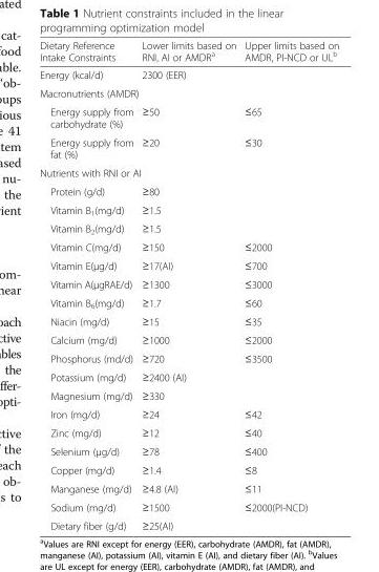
<table><thead><tr><td>Dietary Reference Intake Constraints</td><td>Lower limits based on RNI, AI or AMDR<sup>a</sup></td><td>Upper limits based on AMDR, PI-NCD or UL<sup>b</sup></td></tr></thead><tbody><tr><td>Energy (kcal/d)</td><td>2300 (EER)</td><td></td></tr><tr><td colspan="3">Macronutrients (AMDR)</td></tr><tr><td>Energy supply from carbohydrate (%)</td><td>≥50</td><td>≤65</td></tr><tr><td>Energy supply from fat (%)</td><td>≥20</td><td>≤30</td></tr><tr><td colspan="3">Nutrients with RNI or AI</td></tr><tr><td>Protein (g/d)</td><td>≥80</td><td></td></tr><tr><td>Vitamin B<sub>1</sub>(mg/d)</td><td>≥1.5</td><td></td></tr><tr><td>Vitamin B<sub>2</sub>(mg/d)</td><td>≥1.5</td><td></td></tr><tr><td>Vitamin C(mg/d)</td><td>≥150</td><td>≤2000</td></tr><tr><td>Vitamin E(μg/d)</td><td>≥17(AI)</td><td>≤700</td></tr><tr><td>Vitamin A(μgRAE/d)</td><td>≥1300</td><td>≤3000</td></tr><tr><td>Vitamin B<sub>6</sub>(mg/d)</td><td>≥1.7</td><td>≤60</td></tr><tr><td>Niacin (mg/d)</td><td>≥15</td><td>≤35</td></tr><tr><td>Calcium (mg/d)</td><td>≥1000</td><td>≤2000</td></tr><tr><td>Phosphorus (md/d)</td><td>≥720</td><td>≤3500</td></tr><tr><td>Potassium (mg/d)</td><td>≥2400 (AI)</td><td></td></tr><tr><td>Magnesium (mg/d)</td><td>≥330</td><td></td></tr><tr><td>Iron (mg/d)</td><td>≥24</td><td>≤42</td></tr><tr><td>Zinc (mg/d)</td><td>≥12</td><td>≤40</td></tr><tr><td>Selenium (μg/d)</td><td>≥78</td><td>≤400</td></tr><tr><td>Copper (mg/d)</td><td>≥1.4</td><td>≤8</td></tr><tr><td>Manganese (mg/d)</td><td>≥4.8 (AI)</td><td>≤11</td></tr><tr><td>Sodium (mg/d)</td><td>≥1500</td><td>≤2000(PI-NCD)</td></tr><tr><td>Dietary fiber (g/d)</td><td>≥25(AI)</td><td></td></tr></tbody></table>